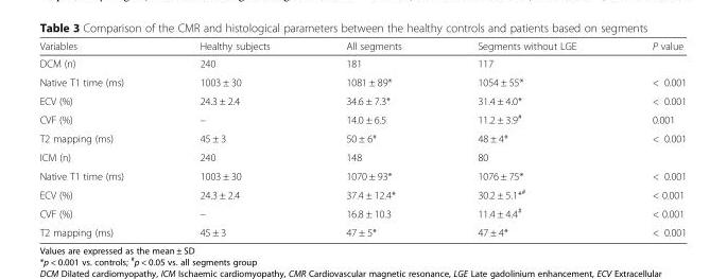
<table><thead><tr><td>Variables</td><td>Healthy subjects</td><td>All segments</td><td>Segments without LGE</td><td>P value</td></tr></thead><tbody><tr><td>DCM (n)</td><td>240</td><td>181</td><td>117</td><td></td></tr><tr><td>Native T1 time (ms)</td><td>1003 ± 30</td><td>1081 ± 89*</td><td>1054 ± 55*</td><td>&lt; 0.001</td></tr><tr><td>ECV (%)</td><td>24.3 ± 2.4</td><td>34.6 ± 7.3*</td><td>31.4 ± 4.0*</td><td>&lt; 0.001</td></tr><tr><td>CVF (%)</td><td>–</td><td>14.0 ± 6.5</td><td>11.2 ± 3.9<sup>#</sup></td><td>0.001</td></tr><tr><td>T2 mapping (ms)</td><td>45 ± 3</td><td>50 ± 6*</td><td>48 ± 4*</td><td>&lt; 0.001</td></tr><tr><td>ICM (n)</td><td>240</td><td>148</td><td>80</td><td></td></tr><tr><td>Native T1 time (ms)</td><td>1003 ± 30</td><td>1070 ± 93*</td><td>1076 ± 75*</td><td>&lt; 0.001</td></tr><tr><td>ECV (%)</td><td>24.3 ± 2.4</td><td>37.4 ± 12.4*</td><td>30.2 ± 5.1*<sup>#</sup></td><td>&lt; 0.001</td></tr><tr><td>CVF (%)</td><td>–</td><td>16.8 ± 10.3</td><td>11.4 ± 4.4<sup>#</sup></td><td>&lt; 0.001</td></tr><tr><td>T2 mapping (ms)</td><td>45 ± 3</td><td>47 ± 5*</td><td>47 ± 4*</td><td>&lt; 0.001</td></tr></tbody></table>